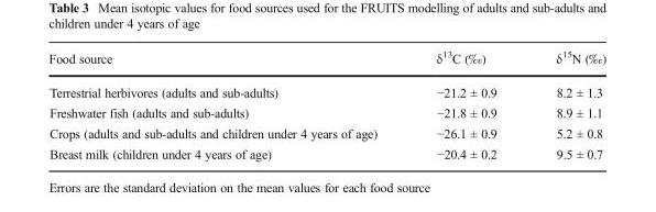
<table><thead><tr><td>Food source</td><td>δ<sup>13</sup>C (‰)</td><td>δ<sup>15</sup>N (‰)</td></tr></thead><tbody><tr><td>Terrestrial herbivores (adults and sub-adults)</td><td>−21.2 ± 0.9</td><td>8.2 ± 1.3</td></tr><tr><td>Freshwater fish (adults and sub-adults)</td><td>−21.8 ± 0.9</td><td>8.9 ± 1.1</td></tr><tr><td>Crops (adults and sub-adults and children under 4 years of age)</td><td>−26.1 ± 0.9</td><td>5.2 ± 0.8</td></tr><tr><td>Breast milk (children under 4 years of age)</td><td>−20.4 ± 0.2</td><td>9.5 ± 0.7</td></tr></tbody></table>